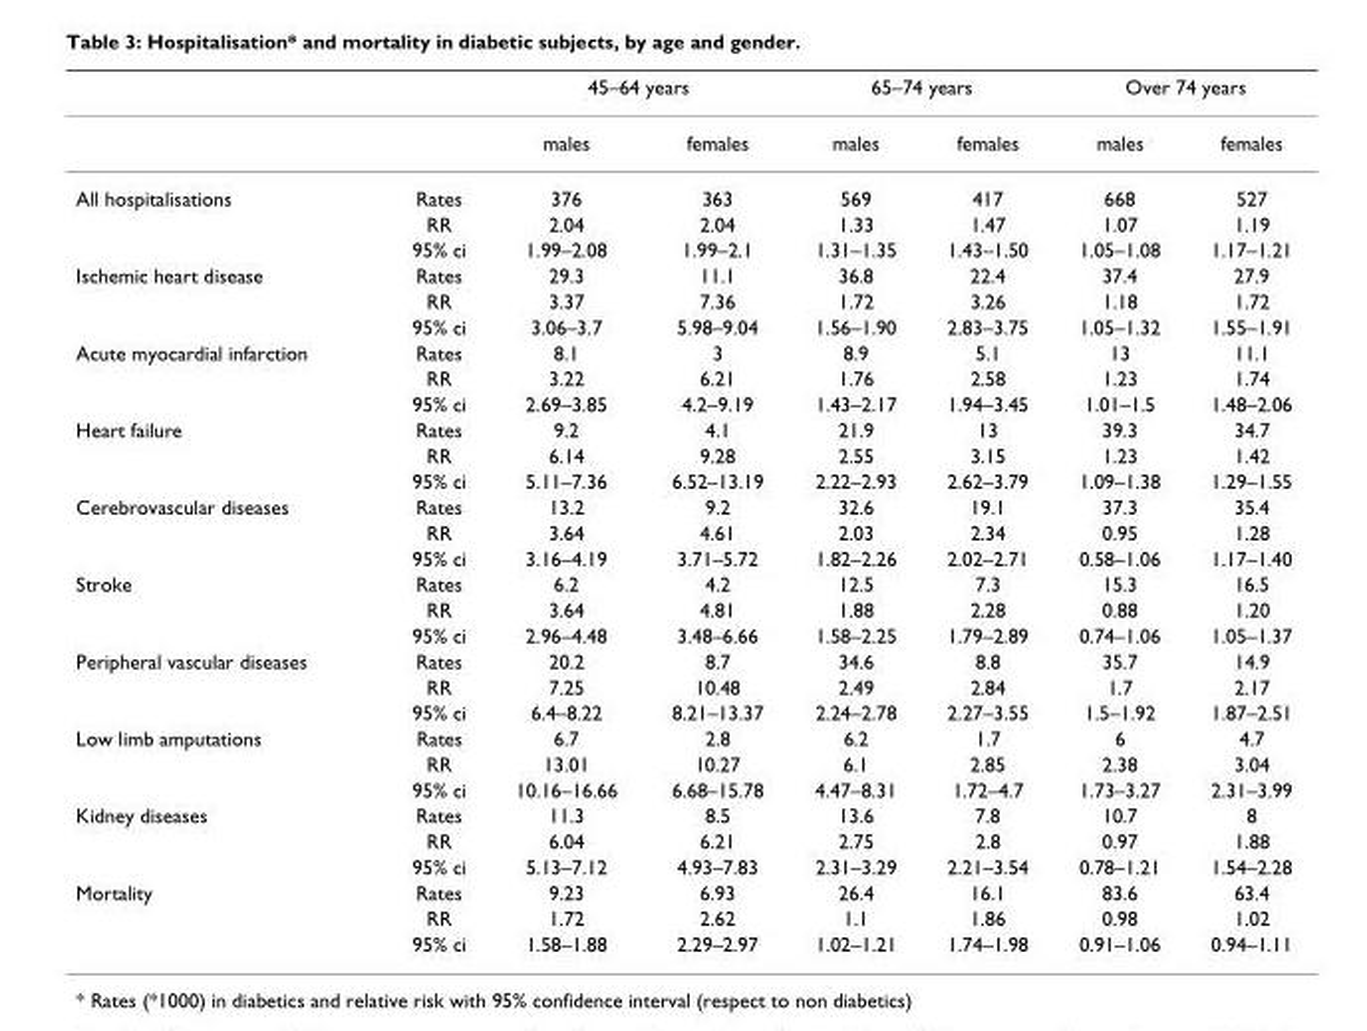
<table><thead><tr><td rowspan="2"></td><td rowspan="2"></td><td colspan="2">45–64 years</td><td colspan="2">65–74 years</td><td colspan="2">Over 74 years</td></tr><tr><td>males</td><td>females</td><td>males</td><td>females</td><td>males</td><td>females</td></tr></thead><tbody><tr><td rowspan="3">All hospitalisations</td><td>Rates</td><td>376</td><td>363</td><td>569</td><td>417</td><td>668</td><td>527</td></tr><tr><td>RR</td><td>2.04</td><td>2.04</td><td>1.33</td><td>1.47</td><td>1.07</td><td>1.19</td></tr><tr><td>95% ci</td><td>1.99–2.08</td><td>1.99–2.1</td><td>1.31–1.35</td><td>1.43–1.50</td><td>1.05–1.08</td><td>1.17–1.21</td></tr><tr><td rowspan="3">Ischemic heart disease</td><td>Rates</td><td>29.3</td><td>11.1</td><td>36.8</td><td>22.4</td><td>37.4</td><td>27.9</td></tr><tr><td>RR</td><td>3.37</td><td>7.36</td><td>1.72</td><td>3.26</td><td>1.18</td><td>1.72</td></tr><tr><td>95% ci</td><td>3.06–3.7</td><td>5.98–9.04</td><td>1.56–1.90</td><td>2.83–3.75</td><td>1.05–1.32</td><td>1.55–1.91</td></tr><tr><td rowspan="3">Acute myocardial infarction</td><td>Rates</td><td>8.1</td><td>3</td><td>8.9</td><td>5.1</td><td>13</td><td>11.1</td></tr><tr><td>RR</td><td>3.22</td><td>6.21</td><td>1.76</td><td>2.58</td><td>1.23</td><td>1.74</td></tr><tr><td>95% ci</td><td>2.69–3.85</td><td>4.2–9.19</td><td>1.43–2.17</td><td>1.94–3.45</td><td>1.01–1.5</td><td>1.48–2.06</td></tr><tr><td rowspan="3">Heart failure</td><td>Rates</td><td>9.2</td><td>4.1</td><td>21.9</td><td>13</td><td>39.3</td><td>34.7</td></tr><tr><td>RR</td><td>6.14</td><td>9.28</td><td>2.55</td><td>3.15</td><td>1.23</td><td>1.42</td></tr><tr><td>95% ci</td><td>5.11–7.36</td><td>6.52–13.19</td><td>2.22–2.93</td><td>2.62–3.79</td><td>1.09–1.38</td><td>1.29–1.55</td></tr><tr><td rowspan="3">Cerebrovascular diseases</td><td>Rates</td><td>13.2</td><td>9.2</td><td>32.6</td><td>19.1</td><td>37.3</td><td>35.4</td></tr><tr><td>RR</td><td>3.64</td><td>4.61</td><td>2.03</td><td>2.34</td><td>0.95</td><td>1.28</td></tr><tr><td>95% ci</td><td>3.16–4.19</td><td>3.71–5.72</td><td>1.82–2.26</td><td>2.02–2.71</td><td>0.58–1.06</td><td>1.17–1.40</td></tr><tr><td rowspan="3">Stroke</td><td>Rates</td><td>6.2</td><td>4.2</td><td>12.5</td><td>7.3</td><td>15.3</td><td>16.5</td></tr><tr><td>RR</td><td>3.64</td><td>4.81</td><td>1.88</td><td>2.28</td><td>0.88</td><td>1.20</td></tr><tr><td>95% ci</td><td>2.96–4.48</td><td>3.48–6.66</td><td>1.58–2.25</td><td>1.79–2.89</td><td>0.74–1.06</td><td>1.05–1.37</td></tr><tr><td rowspan="3">Peripheral vascular diseases</td><td>Rates</td><td>20.2</td><td>8.7</td><td>34.6</td><td>8.8</td><td>35.7</td><td>14.9</td></tr><tr><td>RR</td><td>7.25</td><td>10.48</td><td>2.49</td><td>2.84</td><td>1.7</td><td>2.17</td></tr><tr><td>95% ci</td><td>6.4–8.22</td><td>8.21–13.37</td><td>2.24–2.78</td><td>2.27–3.55</td><td>1.5–1.92</td><td>1.87–2.51</td></tr><tr><td rowspan="3">Low limb amputations</td><td>Rates</td><td>6.7</td><td>2.8</td><td>6.2</td><td>1.7</td><td>6</td><td>4.7</td></tr><tr><td>RR</td><td>13.01</td><td>10.27</td><td>6.1</td><td>2.85</td><td>2.38</td><td>3.04</td></tr><tr><td>95% ci</td><td>10.16–16.66</td><td>6.68–15.78</td><td>4.47–8.31</td><td>1.72–4.7</td><td>1.73–3.27</td><td>2.31–3.99</td></tr><tr><td rowspan="3">Kidney diseases</td><td>Rates</td><td>11.3</td><td>8.5</td><td>13.6</td><td>7.8</td><td>10.7</td><td>8</td></tr><tr><td>RR</td><td>6.04</td><td>6.21</td><td>2.75</td><td>2.8</td><td>0.97</td><td>1.88</td></tr><tr><td>95% ci</td><td>5.13–7.12</td><td>4.93–7.83</td><td>2.31–3.29</td><td>2.21–3.54</td><td>0.78–1.21</td><td>1.54–2.28</td></tr><tr><td rowspan="3">Mortality</td><td>Rates</td><td>9.23</td><td>6.93</td><td>26.4</td><td>16.1</td><td>83.6</td><td>63.4</td></tr><tr><td>RR</td><td>1.72</td><td>2.62</td><td>1.1</td><td>1.86</td><td>0.98</td><td>1.02</td></tr><tr><td>95% ci</td><td>1.58–1.88</td><td>2.29–2.97</td><td>1.02–1.21</td><td>1.74–1.98</td><td>0.91–1.06</td><td>0.94–1.11</td></tr></tbody></table>